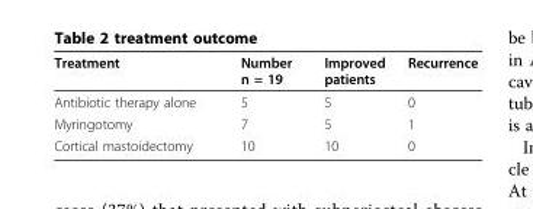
<table><thead><tr><td>Treatment</td><td>Number n = 19</td><td>Improved patients</td><td>Recurrence</td></tr></thead><tbody><tr><td>Antibiotic therapy alone</td><td>5</td><td>5</td><td>0</td></tr><tr><td>Myringotomy</td><td>7</td><td>5</td><td>1</td></tr><tr><td>Cortical mastoidectomy</td><td>10</td><td>10</td><td>0</td></tr></tbody></table>